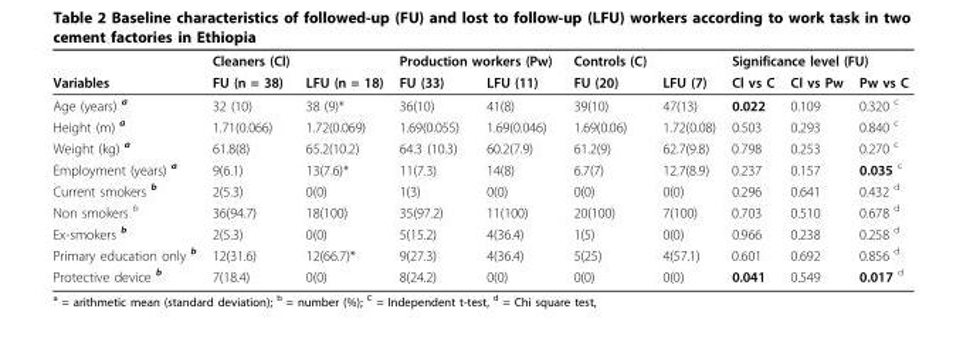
<table><thead><tr><td rowspan="2">Variables</td><td rowspan="2">Cleaners (Cl) FU (n = 38)</td><td rowspan="2">LFU (n = 18)</td><td colspan="2">Production workers (Pw)</td><td rowspan="2">Controls (C) FU (20)</td><td rowspan="2">LFU (7)</td><td colspan="3">Significance level (FU)</td></tr><tr><td>FU (33)</td><td>LFU (11)</td><td>Cl vs C</td><td>Cl vs Pw</td><td>Pw vs C</td></tr></thead><tbody><tr><td>Age (years) <sup>a</sup></td><td>32 (10)</td><td>38 (9)*</td><td>36(10)</td><td>41(8)</td><td>39(10)</td><td>47(13)</td><td>0.022</td><td>0.109</td><td>0.320 <sup>c</sup></td></tr><tr><td>Height (m) <sup>a</sup></td><td>1.71(0.066)</td><td>1.72(0.069)</td><td>1.69(0.055)</td><td>1.69(0.046)</td><td>1.69(0.06)</td><td>1.72(0.08)</td><td>0.503</td><td>0.293</td><td>0.840 <sup>c</sup></td></tr><tr><td>Weight (kg) <sup>a</sup></td><td>61.8(8)</td><td>65.2(10.2)</td><td>64.3 (10.3)</td><td>60.2(7.9)</td><td>61.2(9)</td><td>62.7(9.8)</td><td>0.798</td><td>0.253</td><td>0.270 <sup>c</sup></td></tr><tr><td>Employment (years) <sup>a</sup></td><td>9(6.1)</td><td>13(7.6)*</td><td>11(7.3)</td><td>14(8)</td><td>6.7(7)</td><td>12.7(8.9)</td><td>0.237</td><td>0.157</td><td>0.035 <sup>c</sup></td></tr><tr><td>Current smokers <sup>b</sup></td><td>2(5.3)</td><td>0(0)</td><td>1(3)</td><td>0(0)</td><td>0(0)</td><td>0(0)</td><td>0.296</td><td>0.641</td><td>0.432 <sup>d</sup></td></tr><tr><td>Non smokers <sup>b</sup></td><td>36(94.7)</td><td>18(100)</td><td>35(97.2)</td><td>11(100)</td><td>20(100)</td><td>7(100)</td><td>0.703</td><td>0.510</td><td>0.678 <sup>d</sup></td></tr><tr><td>Ex-smokers <sup>b</sup></td><td>2(5.3)</td><td>0(0)</td><td>5(15.2)</td><td>4(36.4)</td><td>1(5)</td><td>0(0)</td><td>0.966</td><td>0.238</td><td>0.258 <sup>d</sup></td></tr><tr><td>Primary education only <sup>b</sup></td><td>12(31.6)</td><td>12(66.7)*</td><td>9(27.3)</td><td>4(36.4)</td><td>5(25)</td><td>4(57.1)</td><td>0.601</td><td>0.692</td><td>0.856 <sup>d</sup></td></tr><tr><td>Protective device <sup>b</sup></td><td>7(18.4)</td><td>0(0)</td><td>8(24.2)</td><td>0(0)</td><td>0(0)</td><td>0(0)</td><td>0.041</td><td>0.549</td><td>0.017 <sup>d</sup></td></tr></tbody></table>